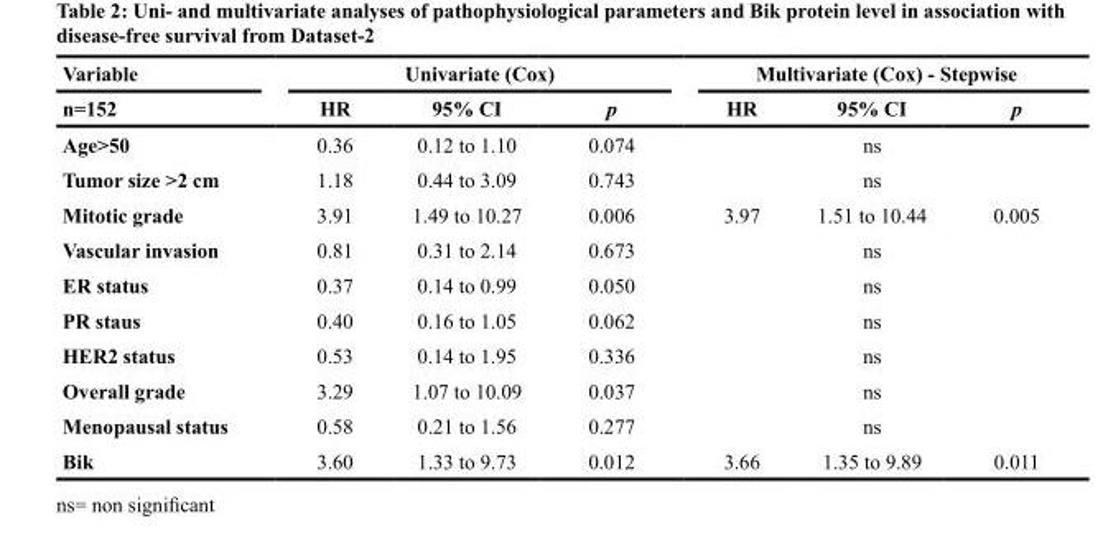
<table><thead><tr><td rowspan="2">Variable n=152</td><td colspan="3">Univariate (Cox)</td><td colspan="3">Multivariate (Cox) - Stepwise</td></tr><tr><td>HR</td><td>95% CI</td><td>p</td><td>HR</td><td>95% CI</td><td>p</td></tr></thead><tbody><tr><td>Age&gt;50</td><td>0.36</td><td>0.12 to 1.10</td><td>0.074</td><td></td><td>ns</td><td></td></tr><tr><td>Tumor size &gt;2 cm</td><td>1.18</td><td>0.44 to 3.09</td><td>0.743</td><td></td><td>ns</td><td></td></tr><tr><td>Mitotic grade</td><td>3.91</td><td>1.49 to 10.27</td><td>0.006</td><td>3.97</td><td>1.51 to 10.44</td><td>0.005</td></tr><tr><td>Vascular invasion</td><td>0.81</td><td>0.31 to 2.14</td><td>0.673</td><td></td><td>ns</td><td></td></tr><tr><td>ER status</td><td>0.37</td><td>0.14 to 0.99</td><td>0.050</td><td></td><td>ns</td><td></td></tr><tr><td>PR staus</td><td>0.40</td><td>0.16 to 1.05</td><td>0.062</td><td></td><td>ns</td><td></td></tr><tr><td>HER2 status</td><td>0.53</td><td>0.14 to 1.95</td><td>0.336</td><td></td><td>ns</td><td></td></tr><tr><td>Overall grade</td><td>3.29</td><td>1.07 to 10.09</td><td>0.037</td><td></td><td>ns</td><td></td></tr><tr><td>Menopausal status</td><td>0.58</td><td>0.21 to 1.56</td><td>0.277</td><td></td><td>ns</td><td></td></tr><tr><td>Bik</td><td>3.60</td><td>1.33 to 9.73</td><td>0.012</td><td>3.66</td><td>1.35 to 9.89</td><td>0.011</td></tr></tbody></table>